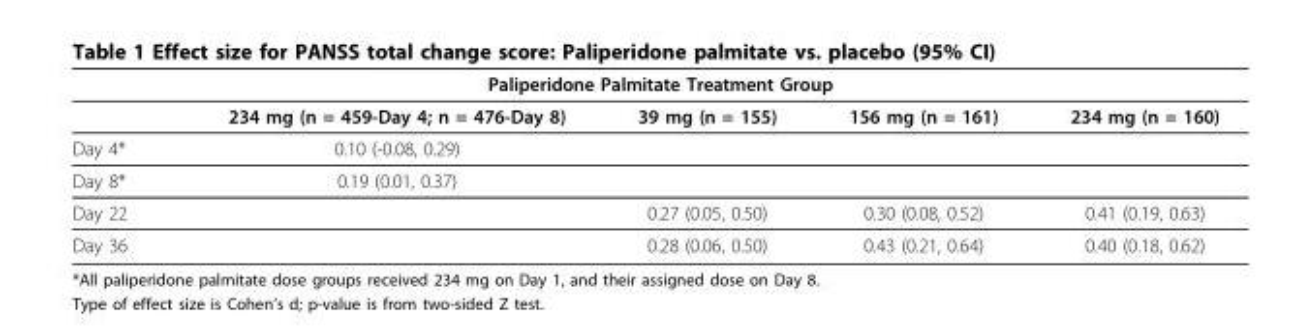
<table><thead><tr><td colspan="5">Paliperidone Palmitate Treatment Group</td></tr><tr><td></td><td>234 mg (n = 459-Day 4; n = 476-Day 8)</td><td>39 mg (n = 155)</td><td>156 mg (n = 161)</td><td>234 mg (n = 160)</td></tr></thead><tbody><tr><td>Day 4*</td><td>0.10 (-0.08, 0.29)</td><td></td><td></td><td></td></tr><tr><td>Day 8*</td><td>0.19 (0.01, 0.37)</td><td></td><td></td><td></td></tr><tr><td>Day 22</td><td></td><td>0.27 (0.05, 0.50)</td><td>0.30 (0.08, 0.52)</td><td>0.41 (0.19, 0.63)</td></tr><tr><td>Day 36</td><td></td><td>0.28 (0.06, 0.50)</td><td>0.43 (0.21, 0.64)</td><td>0.40 (0.18, 0.62)</td></tr></tbody></table>